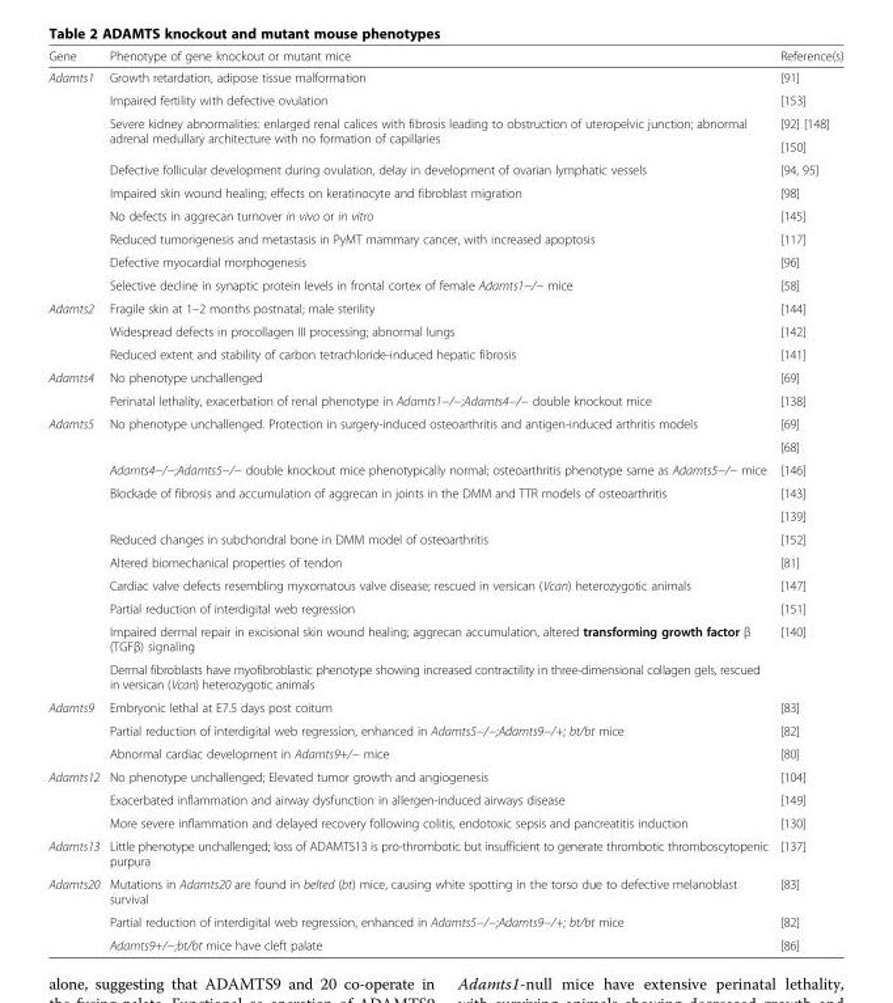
<table><thead><tr><td>Gene</td><td>Phenotype of gene knockout or mutant mice</td><td>Reference(s)</td></tr></thead><tbody><tr><td rowspan="10">Adamts1</td><td>Growth retardation, adipose tissue malformation</td><td>[91]</td></tr><tr><td>Impaired fertility with defective ovulation</td><td>[153]</td></tr><tr><td rowspan="2">Severe kidney abnormalities: enlarged renal calices with fibrosis leading to obstruction of uteropelvic junction; abnormal adrenal medullary architecture with no formation of capillaries</td><td>[92] [148]</td></tr><tr><td>[150]</td></tr><tr><td>Defective follicular development during ovulation, delay in development of ovarian lymphatic vessels</td><td>[94, 95]</td></tr><tr><td>Impaired skin wound healing; effects on keratinocyte and fibroblast migration</td><td>[98]</td></tr><tr><td>No defects in aggrecan turnover in vivo or in vitro</td><td>[145]</td></tr><tr><td>Reduced tumorigenesis and metastasis in PyMT mammary cancer, with increased apoptosis</td><td>[117]</td></tr><tr><td>Defective myocardial morphogenesis</td><td>[96]</td></tr><tr><td>Selective decline in synaptic protein levels in frontal cortex of female Adamts1−/− mice</td><td>[58]</td></tr><tr><td rowspan="3">Adamts2</td><td>Fragile skin at 1–2 months postnatal; male sterility</td><td>[144]</td></tr><tr><td>Widespread defects in procollagen III processing; abnormal lungs</td><td>[142]</td></tr><tr><td>Reduced extent and stability of carbon tetrachloride-induced hepatic fibrosis</td><td>[141]</td></tr><tr><td rowspan="2">Adamts4</td><td>No phenotype unchallenged</td><td>[69]</td></tr><tr><td>Perinatal lethality, exacerbation of renal phenotype in Adamts1−/−;Adamts4−/− double knockout mice</td><td>[138]</td></tr><tr><td rowspan="11">Adamts5</td><td rowspan="2">No phenotype unchallenged. Protection in surgery-induced osteoarthritis and antigen-induced arthritis models</td><td>[69]</td></tr><tr><td>[68]</td></tr><tr><td>Adamts4−/−;Adamts5−/− double knockout mice phenotypically normal; osteoarthritis phenotype same as Adamts5−/− mice</td><td>[146]</td></tr><tr><td rowspan="2">Blockade of fibrosis and accumulation of aggrecan in joints in the DMM and TTR models of osteoarthritis</td><td>[143]</td></tr><tr><td>[139]</td></tr><tr><td>Reduced changes in subchondral bone in DMM model of osteoarthritis</td><td>[152]</td></tr><tr><td>Altered biomechanical properties of tendon</td><td>[81]</td></tr><tr><td>Cardiac valve defects resembling myxomatous valve disease; rescued in versican (Vcan) heterozygotic animals</td><td>[147]</td></tr><tr><td>Partial reduction of interdigital web regression</td><td>[151]</td></tr><tr><td>Impaired dermal repair in excisional skin wound healing; aggrecan accumulation, altered transforming growth factor β (TGFβ) signaling</td><td>[140]</td></tr><tr><td>Dermal fibroblasts have myofibroblastic phenotype showing increased contractility in three-dimensional collagen gels, rescued in versican (Vcan) heterozygotic animals</td><td></td></tr><tr><td rowspan="3">Adamts9</td><td>Embryonic lethal at E7.5 days post coitum</td><td>[83]</td></tr><tr><td>Partial reduction of interdigital web regression, enhanced in Adamts5−/−;Adamts9−/+; bt/bt mice</td><td>[82]</td></tr><tr><td>Abnormal cardiac development in Adamts9+/− mice</td><td>[80]</td></tr><tr><td rowspan="3">Adamts12</td><td>No phenotype unchallenged; Elevated tumor growth and angiogenesis</td><td>[104]</td></tr><tr><td>Exacerbated inflammation and airway dysfunction in allergen-induced airways disease</td><td>[149]</td></tr><tr><td>More severe inflammation and delayed recovery following colitis, endotoxic sepsis and pancreatitis induction</td><td>[130]</td></tr><tr><td>Adamts13</td><td>Little phenotype unchallenged; loss of ADAMTS13 is pro-thrombotic but insufficient to generate thrombotic thromboscytopenic purpura</td><td>[137]</td></tr><tr><td rowspan="3">Adamts20</td><td>Mutations in Adamts20 are found in belted (bt) mice, causing white spotting in the torso due to defective melanoblast survival</td><td>[83]</td></tr><tr><td>Partial reduction of interdigital web regression, enhanced in Adamts5−/−;Adamts9−/+; bt/bt mice</td><td>[82]</td></tr><tr><td>Adamts9+/−;bt/bt mice have cleft palate</td><td>[86]</td></tr></tbody></table>